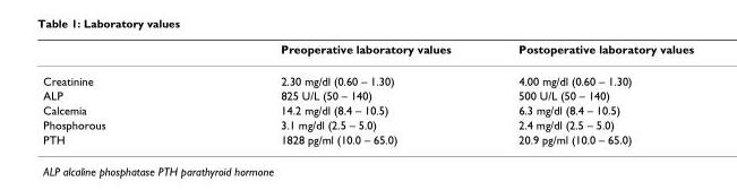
<table><thead><tr><td></td><td>Preoperative laboratory values</td><td>Postoperative laboratory values</td></tr></thead><tbody><tr><td>Creatinine</td><td>2.30 mg/dl (0.60 – 1.30)</td><td>4.00 mg/dl (0.60 – 1.30)</td></tr><tr><td>ALP</td><td>825 U/L (50 – 140)</td><td>500 U/L (50 – 140)</td></tr><tr><td>Calcemia</td><td>14.2 mg/dl (8.4 – 10.5)</td><td>6.3 mg/dl (8.4 – 10.5)</td></tr><tr><td>Phosphorous</td><td>3.1 mg/dl (2.5 – 5.0)</td><td>2.4 mg/dl (2.5 – 5.0)</td></tr><tr><td>PTH</td><td>1828 pg/ml (10.0 – 65.0)</td><td>20.9 pg/ml (10.0 – 65.0)</td></tr></tbody></table>